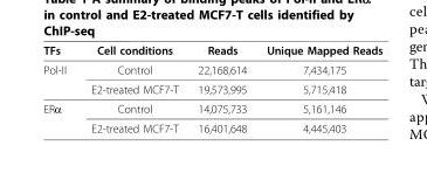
<table><thead><tr><td>TFs</td><td>Cell conditions</td><td>Reads</td><td>Unique Mapped Reads</td></tr></thead><tbody><tr><td rowspan="2">Pol-II</td><td>Control</td><td>22,168,614</td><td>7,434,175</td></tr><tr><td>E2-treated MCF7-T</td><td>19,573,995</td><td>5,715,418</td></tr><tr><td rowspan="2">ERα</td><td>Control</td><td>14,075,733</td><td>5,161,146</td></tr><tr><td>E2-treated MCF7-T</td><td>16,401,648</td><td>4,445,403</td></tr></tbody></table>